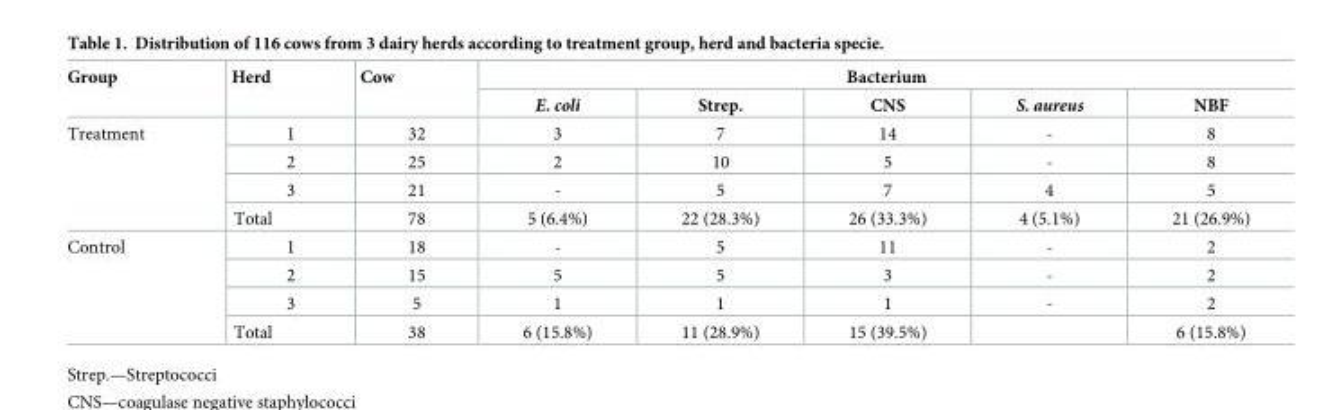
<table><thead><tr><td rowspan="2">Group</td><td rowspan="2">Herd</td><td rowspan="2">Cow</td><td colspan="5">Bacterium</td></tr><tr><td>E. coli</td><td>Strep.</td><td>CNS</td><td>S. aureus</td><td>NBF</td></tr></thead><tbody><tr><td rowspan="4">Treatment</td><td>1</td><td>32</td><td>3</td><td>7</td><td>14</td><td>-</td><td>8</td></tr><tr><td>2</td><td>25</td><td>2</td><td>10</td><td>5</td><td>-</td><td>8</td></tr><tr><td>3</td><td>21</td><td>-</td><td>5</td><td>7</td><td>4</td><td>5</td></tr><tr><td>Total</td><td>78</td><td>5 (6.4%)</td><td>22 (28.3%)</td><td>26 (33.3%)</td><td>4 (5.1%)</td><td>21 (26.9%)</td></tr><tr><td rowspan="4">Control</td><td>1</td><td>18</td><td>-</td><td>5</td><td>11</td><td>-</td><td>2</td></tr><tr><td>2</td><td>15</td><td>5</td><td>5</td><td>3</td><td>-</td><td>2</td></tr><tr><td>3</td><td>5</td><td>1</td><td>1</td><td>1</td><td>-</td><td>2</td></tr><tr><td>Total</td><td>38</td><td>6 (15.8%)</td><td>11 (28.9%)</td><td>15 (39.5%)</td><td></td><td>6 (15.8%)</td></tr></tbody></table>